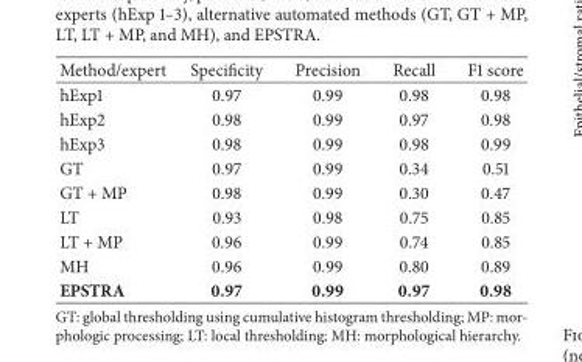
<table><thead><tr><td>Method/expert</td><td>Specificity</td><td>Precision</td><td>Recall</td><td>F1 score</td></tr></thead><tbody><tr><td>hExp1</td><td>0.97</td><td>0.99</td><td>0.98</td><td>0.98</td></tr><tr><td>hExp2</td><td>0.98</td><td>0.99</td><td>0.97</td><td>0.98</td></tr><tr><td>hExp3</td><td>0.98</td><td>0.99</td><td>0.98</td><td>0.99</td></tr><tr><td>GT</td><td>0.97</td><td>0.99</td><td>0.34</td><td>0.51</td></tr><tr><td>GT + MP</td><td>0.98</td><td>0.99</td><td>0.30</td><td>0.47</td></tr><tr><td>LT</td><td>0.93</td><td>0.98</td><td>0.75</td><td>0.85</td></tr><tr><td>LT + MP</td><td>0.96</td><td>0.99</td><td>0.74</td><td>0.85</td></tr><tr><td>MH</td><td>0.96</td><td>0.99</td><td>0.80</td><td>0.89</td></tr><tr><td>EPSTRA</td><td>0.97</td><td>0.99</td><td>0.97</td><td>0.98</td></tr></tbody></table>